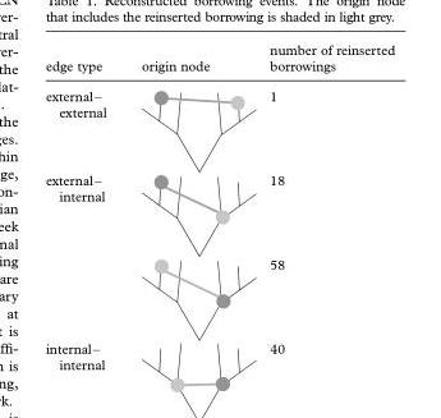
<table><thead><tr><td>edge type</td><td>origin node</td><td>number of reinserted borrowings</td></tr></thead><tbody><tr><td>external– external</td><td></td><td>1</td></tr><tr><td rowspan="2">external– internal</td><td></td><td>18</td></tr><tr><td></td><td>58</td></tr><tr><td>internal– internal</td><td></td><td>40</td></tr></tbody></table>